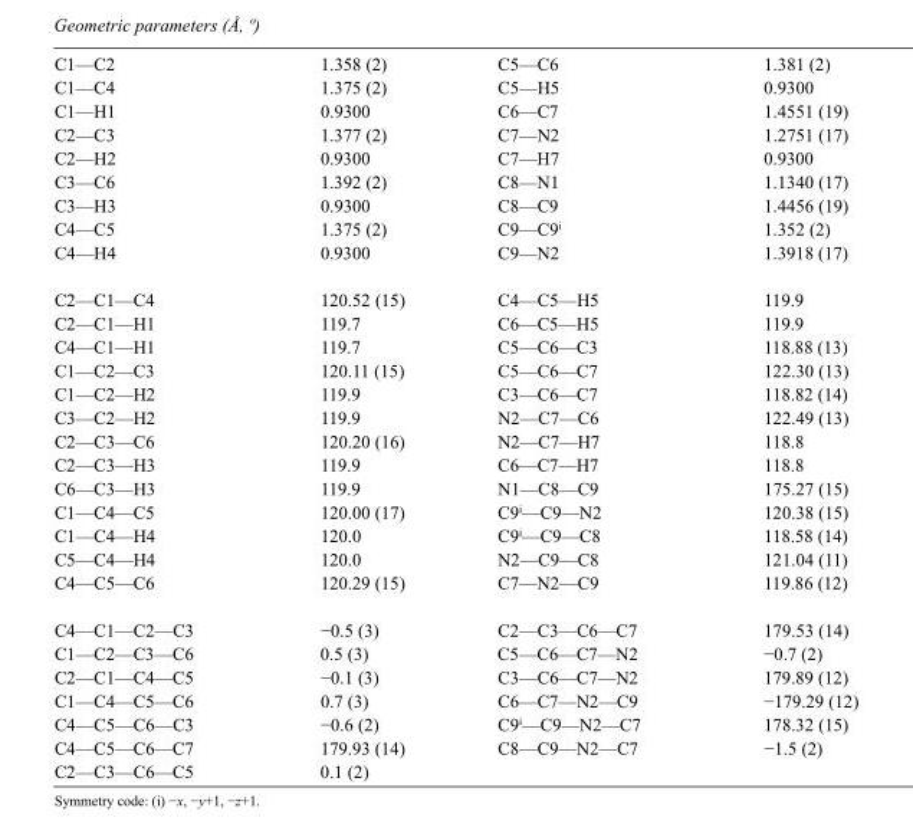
<table><tbody><tr><td>C1—C2</td><td>1.358 (2)</td><td>C5—C6</td><td>1.381 (2)</td></tr><tr><td>C1—C4</td><td>1.375 (2)</td><td>C5—H5</td><td>0.9300</td></tr><tr><td>C1—H1</td><td>0.9300</td><td>C6—C7</td><td>1.4551 (19)</td></tr><tr><td>C2—C3</td><td>1.377 (2)</td><td>C7—N2</td><td>1.2751 (17)</td></tr><tr><td>C2—H2</td><td>0.9300</td><td>C7—H7</td><td>0.9300</td></tr><tr><td>C3—C6</td><td>1.392 (2)</td><td>C8—N1</td><td>1.1340 (17)</td></tr><tr><td>C3—H3</td><td>0.9300</td><td>C8—C9</td><td>1.4456 (19)</td></tr><tr><td>C4—C5</td><td>1.375 (2)</td><td>C9—C9<sup>i</sup></td><td>1.352 (2)</td></tr><tr><td>C4—H4</td><td>0.9300</td><td>C9—N2</td><td>1.3918 (17)</td></tr><tr><td>C2—C1—C4</td><td>120.52 (15)</td><td>C4—C5—H5</td><td>119.9</td></tr><tr><td>C2—C1—H1</td><td>119.7</td><td>C6—C5—H5</td><td>119.9</td></tr><tr><td>C4—C1—H1</td><td>119.7</td><td>C5—C6—C3</td><td>118.88 (13)</td></tr><tr><td>C1—C2—C3</td><td>120.11 (15)</td><td>C5—C6—C7</td><td>122.30 (13)</td></tr><tr><td>C1—C2—H2</td><td>119.9</td><td>C3—C6—C7</td><td>118.82 (14)</td></tr><tr><td>C3—C2—H2</td><td>119.9</td><td>N2—C7—C6</td><td>122.49 (13)</td></tr><tr><td>C2—C3—C6</td><td>120.20 (16)</td><td>N2—C7—H7</td><td>118.8</td></tr><tr><td>C2—C3—H3</td><td>119.9</td><td>C6—C7—H7</td><td>118.8</td></tr><tr><td>C6—C3—H3</td><td>119.9</td><td>N1—C8—C9</td><td>175.27 (15)</td></tr><tr><td>C1—C4—C5</td><td>120.00 (17)</td><td>C9<sup>i</sup>—C9—N2</td><td>120.38 (15)</td></tr><tr><td>C1—C4—H4</td><td>120.0</td><td>C9<sup>i</sup>—C9—C8</td><td>118.58 (14)</td></tr><tr><td>C5—C4—H4</td><td>120.0</td><td>N2—C9—C8</td><td>121.04 (11)</td></tr><tr><td>C4—C5—C6</td><td>120.29 (15)</td><td>C7—N2—C9</td><td>119.86 (12)</td></tr><tr><td>C4—C1—C2—C3</td><td>−0.5 (3)</td><td>C2—C3—C6—C7</td><td>179.53 (14)</td></tr><tr><td>C1—C2—C3—C6</td><td>0.5 (3)</td><td>C5—C6—C7—N2</td><td>−0.7 (2)</td></tr><tr><td>C2—C1—C4—C5</td><td>−0.1 (3)</td><td>C3—C6—C7—N2</td><td>179.89 (12)</td></tr><tr><td>C1—C4—C5—C6</td><td>0.7 (3)</td><td>C6—C7—N2—C9</td><td>−179.29 (12)</td></tr><tr><td>C4—C5—C6—C3</td><td>−0.6 (2)</td><td>C9<sup>i</sup>—C9—N2—C7</td><td>178.32 (15)</td></tr><tr><td>C4—C5—C6—C7</td><td>179.93 (14)</td><td>C8—C9—N2—C7</td><td>−1.5 (2)</td></tr><tr><td>C2—C3—C6—C5</td><td>0.1 (2)</td><td></td><td></td></tr></tbody></table>